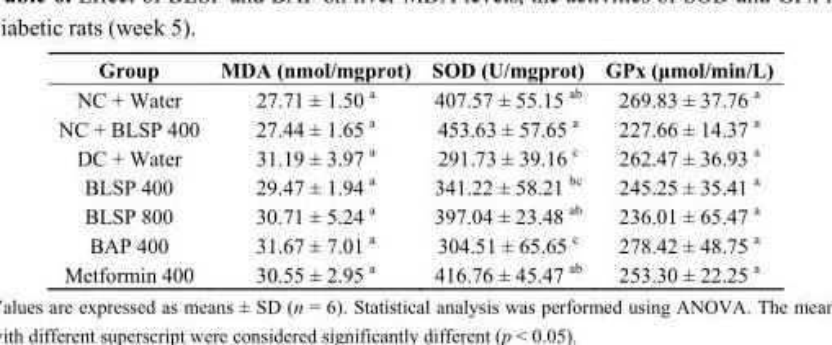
<table><thead><tr><td>Group</td><td>MDA (nmol/mgprot)</td><td>SOD (U/mgprot)</td><td>GPx (μmol/min/L)</td></tr></thead><tbody><tr><td>NC + Water</td><td>27.71 ± 1.50 <sup>a</sup></td><td>407.57 ± 55.15 <sup>ab</sup></td><td>269.83 ± 37.76 <sup>a</sup></td></tr><tr><td>NC + BLSP 400</td><td>27.44 ± 1.65 <sup>a</sup></td><td>453.63 ± 57.65 <sup>a</sup></td><td>227.66 ± 14.37 <sup>a</sup></td></tr><tr><td>DC + Water</td><td>31.19 ± 3.97 <sup>a</sup></td><td>291.73 ± 39.16 <sup>c</sup></td><td>262.47 ± 36.93 <sup>a</sup></td></tr><tr><td>BLSP 400</td><td>29.47 ± 1.94 <sup>a</sup></td><td>341.22 ± 58.21 <sup>bc</sup></td><td>245.25 ± 35.41 <sup>a</sup></td></tr><tr><td>BLSP 800</td><td>30.71 ± 5.24 <sup>a</sup></td><td>397.04 ± 23.48 <sup>ab</sup></td><td>236.01 ± 65.47 <sup>a</sup></td></tr><tr><td>BAP 400</td><td>31.67 ± 7.01 <sup>a</sup></td><td>304.51 ± 65.65 <sup>c</sup></td><td>278.42 ± 48.75 <sup>a</sup></td></tr><tr><td>Metformin 400</td><td>30.55 ± 2.95 <sup>a</sup></td><td>416.76 ± 45.47 <sup>ab</sup></td><td>253.30 ± 22.25 <sup>a</sup></td></tr></tbody></table>